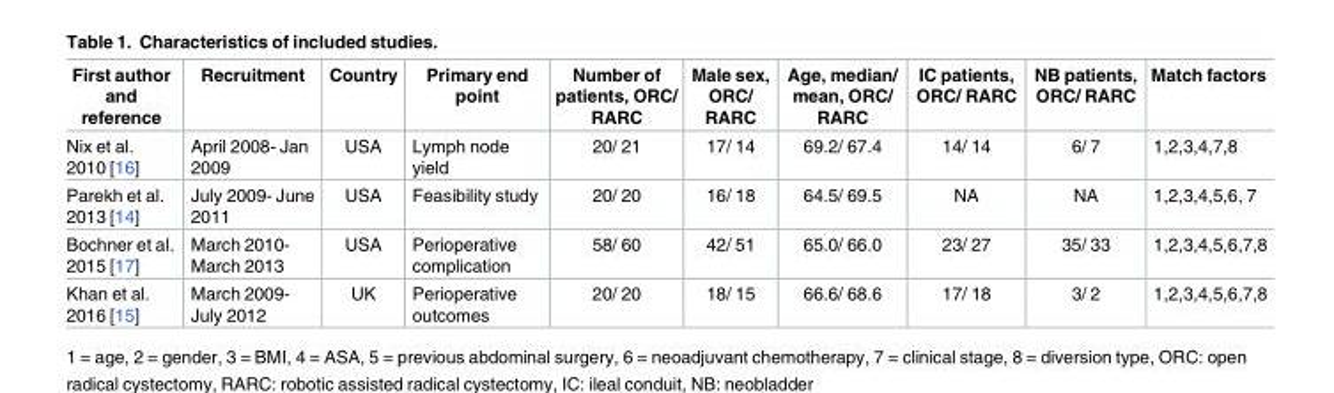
<table><thead><tr><td>First author and reference</td><td>Recruitment</td><td>Country</td><td>Primary end point</td><td>Number of patients, ORC/ RARC</td><td>Male sex, ORC/ RARC</td><td>Age, median/ mean, ORC/ RARC</td><td>IC patients, ORC/ RARC</td><td>NB patients, ORC/ RARC</td><td>Match factors</td></tr></thead><tbody><tr><td>Nix et al. 2010 [16]</td><td>April 2008- Jan 2009</td><td>USA</td><td>Lymph node yield</td><td>20/ 21</td><td>17/ 14</td><td>69.2/ 67.4</td><td>14/ 14</td><td>6/ 7</td><td>1,2,3,4,7,8</td></tr><tr><td>Parekh et al. 2013 [14]</td><td>July 2009- June 2011</td><td>USA</td><td>Feasibility study</td><td>20/ 20</td><td>16/ 18</td><td>64.5/ 69.5</td><td>NA</td><td>NA</td><td>1,2,3,4,5,6, 7</td></tr><tr><td>Bochner et al. 2015 [17]</td><td>March 2010- March 2013</td><td>USA</td><td>Perioperative complication</td><td>58/ 60</td><td>42/ 51</td><td>65.0/ 66.0</td><td>23/ 27</td><td>35/ 33</td><td>1,2,3,4,5,6,7,8</td></tr><tr><td>Khan et al. 2016 [15]</td><td>March 2009- July 2012</td><td>UK</td><td>Perioperative outcomes</td><td>20/ 20</td><td>18/ 15</td><td>66.6/ 68.6</td><td>17/ 18</td><td>3/ 2</td><td>1,2,3,4,5,6,7,8</td></tr></tbody></table>